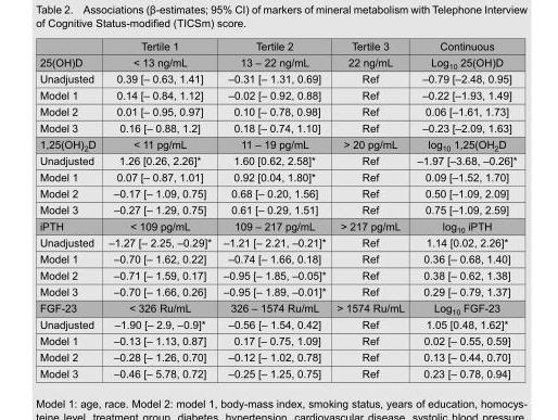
<table><thead><tr><td></td><td>Tertile 1</td><td>Tertile 2</td><td>Tertile 3</td><td>Continuous</td></tr></thead><tbody><tr><td>25(OH)D</td><td>&lt; 13 ng/mL</td><td>13 – 22 ng/mL</td><td>22 ng/mL</td><td>Log<sub>10</sub> 25(OH)D</td></tr><tr><td>Unadjusted</td><td>0.39 [– 0.63, 1.41]</td><td>–0.31 [– 1.31, 0.69]</td><td>Ref</td><td>–0.79 [–2.48, 0.95]</td></tr><tr><td>Model 1</td><td>0.14 [– 0.84, 1.12]</td><td>–0.02 [– 0.92, 0.88]</td><td>Ref</td><td>–0.22 [–1.93, 1.49]</td></tr><tr><td>Model 2</td><td>0.01 [– 0.95, 0.97]</td><td>0.10 [– 0.78, 0.98]</td><td>Ref</td><td>0.06 [–1.61, 1.73]</td></tr><tr><td>Model 3</td><td>0.16 [– 0.88, 1.2]</td><td>0.18 [– 0.74, 1.10]</td><td>Ref</td><td>–0.23 [–2.09, 1.63]</td></tr><tr><td>1,25(OH)<sub>2</sub>D</td><td>&lt; 11 pg/mL</td><td>11 – 19 pg/mL</td><td>&gt; 20 pg/mL</td><td>log<sub>10</sub> 1,25(OH<sub>2</sub>D</td></tr><tr><td>Unadjusted</td><td>1.26 [0.26, 2.26]*</td><td>1.60 [0.62, 2.58]*</td><td>Ref</td><td>–1.97 [–3.68, –0.26]*</td></tr><tr><td>Model 1</td><td>0.07 [– 0.87, 1.01]</td><td>0.92 [0.04, 1.80]*</td><td>Ref</td><td>0.09 [–1.52, 1.70]</td></tr><tr><td>Model 2</td><td>–0.17 [– 1.09, 0.75]</td><td>0.68 [– 0.20, 1.56]</td><td>Ref</td><td>0.50 [–1.09, 2.09]</td></tr><tr><td>Model 3</td><td>–0.27 [– 1.29, 0.75]</td><td>0.61 [– 0.29, 1.51]</td><td>Ref</td><td>0.75 [–1.09, 2.59]</td></tr><tr><td>iPTH</td><td>&lt; 109 pg/mL</td><td>109 – 217 pg/mL</td><td>&gt; 217 pg/mL</td><td>log<sub>10</sub> iPTH</td></tr><tr><td>Unadjusted</td><td>–1.27 [– 2.25, –0.29]*</td><td>–1.21 [– 2.21, –0.21]*</td><td>Ref</td><td>1.14 [0.02, 2.26]*</td></tr><tr><td>Model 1</td><td>–0.70 [– 1.62, 0.22]</td><td>–0.74 [– 1.66, 0.18]</td><td>Ref</td><td>0.36 [– 0.68, 1.40]</td></tr><tr><td>Model 2</td><td>–0.71 [– 1.59, 0.17]</td><td>–0.95 [– 1.85, –0.05]*</td><td>Ref</td><td>0.38 [– 0.62, 1.38]</td></tr><tr><td>Model 3</td><td>–0.70 [– 1.66, 0.26]</td><td>–0.95 [– 1.89, –0.01]*</td><td>Ref</td><td>0.29 [– 0.79, 1.37]</td></tr><tr><td>FGF23</td><td>&lt; 326 Ru/mL</td><td>326 – 1574 Ru/mL</td><td>&gt; 1574 Ru/mL</td><td>Log10 FGF23</td></tr><tr><td>Unadjusted</td><td>–1.90 [– 2.9, –0.9]*</td><td>–0.56 [– 1.54, 0.42]</td><td>Ref</td><td>1.05 [0.48, 1.62]*</td></tr><tr><td>Model 1</td><td>–0.13 [– 1.13, 0.87]</td><td>0.17 [– 0.75, 1.09]</td><td>Ref</td><td>0.02 [– 0.55, 0.59]</td></tr><tr><td>Model 2</td><td>–0.28 [– 1.26, 0.70]</td><td>–0.12 [– 1.02, 0.78]</td><td>Ref</td><td>0.13 [– 0.44, 0.70]</td></tr><tr><td>Model 3</td><td>–0.46 [– 5.78, 0.72]</td><td>–0.25 [– 1.25, 0.75]</td><td>Ref</td><td>0.23 [– 0.78, 0.94]</td></tr></tbody></table>